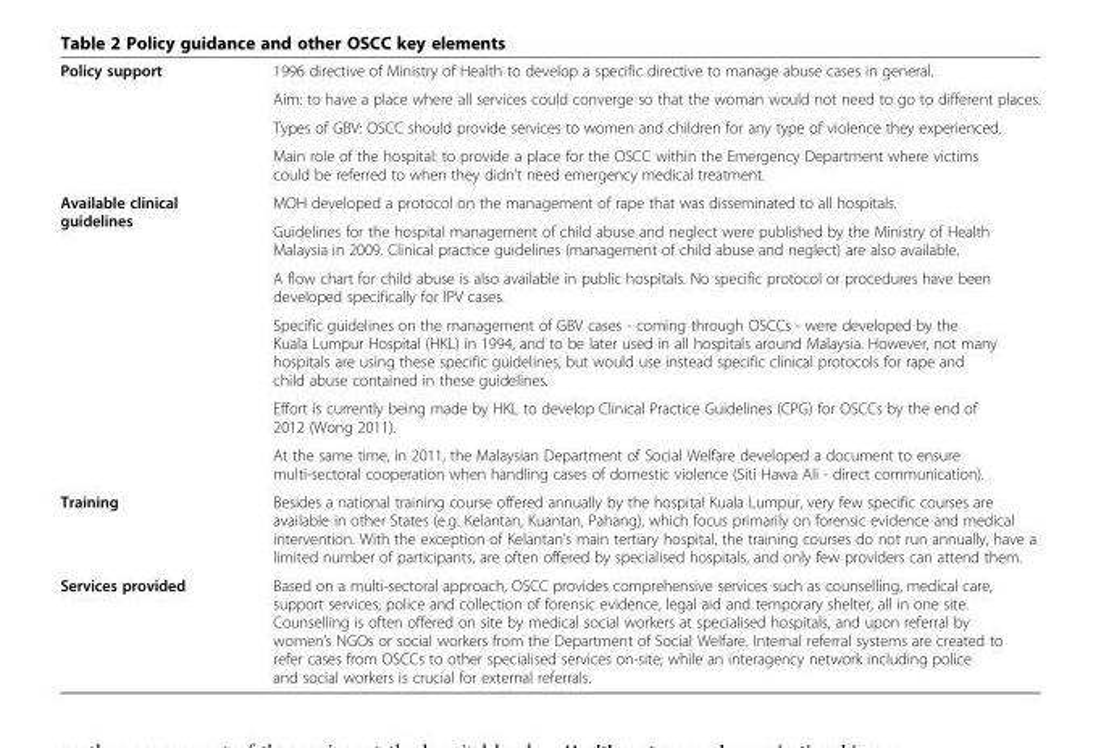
<table><tbody><tr><td rowspan="4">Policy support</td><td>1996 directive of Ministry of Health to develop a specific directive to manage abuse cases in general.</td></tr><tr><td>Aim: to have a place where all services could converge so that the woman would not need to go to different places.</td></tr><tr><td>Types of GBV: OSCC should provide services to women and children for any type of violence they experienced.</td></tr><tr><td>Main role of the hospital: to provide a place for the OSCC within the Emergency Department where victims could be referred to when they didn’t need emergency medical treatment.</td></tr><tr><td rowspan="6">Available clinical guidelines</td><td>MOH developed a protocol on the management of rape that was disseminated to all hospitals.</td></tr><tr><td>Guidelines for the hospital management of child abuse and neglect were published by the Ministry of Health Malaysia in 2009. Clinical practice guidelines (management of child abuse and neglect) are also available.</td></tr><tr><td>A flow chart for child abuse is also available in public hospitals. No specific protocol or procedures have been developed specifically for IPV cases.</td></tr><tr><td>Specific guidelines on the management of GBV cases - coming through OSCCs - were developed by the Kuala Lumpur Hospital (HKL) in 1994, and to be later used in all hospitals around Malaysia. However, not many hospitals are using these specific guidelines, but would use instead specific clinical protocols for rape and child abuse contained in these guidelines.</td></tr><tr><td>Effort is currently being made by HKL to develop Clinical Practice Guidelines (CPG) for OSCCs by the end of 2012 (Wong 2011).</td></tr><tr><td>At the same time, in 2011, the Malaysian Department of Social Welfare developed a document to ensure multi-sectoral cooperation when handling cases of domestic violence (Siti Hawa Ali - direct communication).</td></tr><tr><td>Training</td><td>Besides a national training course offered annually by the hospital Kuala Lumpur, very few specific courses are available in other States (e.g. Kelantan, Kuantan, Pahang), which focus primarily on forensic evidence and medical intervention. With the exception of Kelantan’s main tertiary hospital, the training courses do not run annually, have a limited number of participants, are often offered by specialised hospitals, and only few providers can attend them.</td></tr><tr><td>Services provided</td><td>Based on a multi-sectoral approach, OSCC provides comprehensive services such as counselling, medical care, support services, police and collection of forensic evidence, legal aid and temporary shelter, all in one site. Counselling is often offered on site by medical social workers at specialised hospitals, and upon referral by women’s NGOs or social workers from the Department of Social Welfare. Internal referral systems are created to refer cases from OSCCs to other specialised services on-site; while an interagency network including police and social workers is crucial for external referrals.</td></tr></tbody></table>